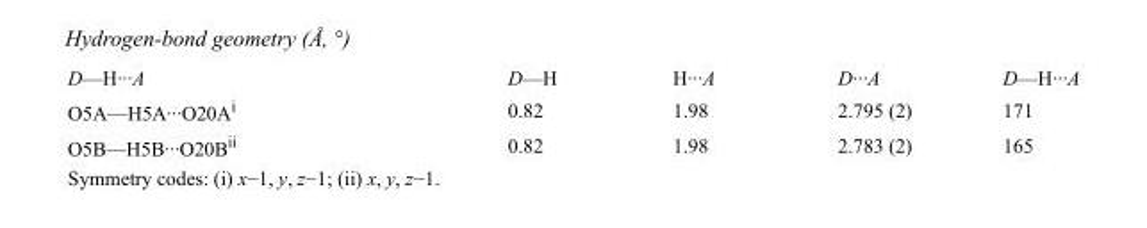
<table><tbody><tr><td>D—H···A</td><td>D—H</td><td>H···A</td><td>D···A</td><td>D—H···A</td></tr><tr><td>O5A—H5A···O20A<sup>i</sup></td><td>0.82</td><td>1.98</td><td>2.795 (2)</td><td>171</td></tr><tr><td>O5B—H5B···O20B<sup>ii</sup></td><td>0.82</td><td>1.98</td><td>2.783 (2)</td><td>165</td></tr></tbody></table>